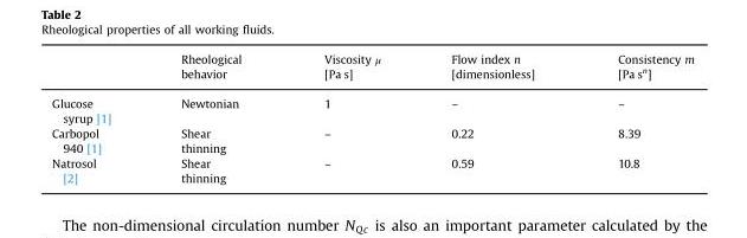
<table><thead><tr><td></td><td>Rheological behavior</td><td>Viscosity μ [Pa s]</td><td>Flow index n [dimensionless]</td><td>Consistency m [Pa s<sup>n</sup>]</td></tr></thead><tbody><tr><td>Glucose syrup [1]</td><td>Newtonian</td><td>1</td><td>–</td><td>–</td></tr><tr><td>Carbopol 940 [1]</td><td>Shear thinning</td><td>–</td><td>0.22</td><td>8.39</td></tr><tr><td>Natrosol [2]</td><td>Shear thinning</td><td>–</td><td>0.59</td><td>10.8</td></tr></tbody></table>